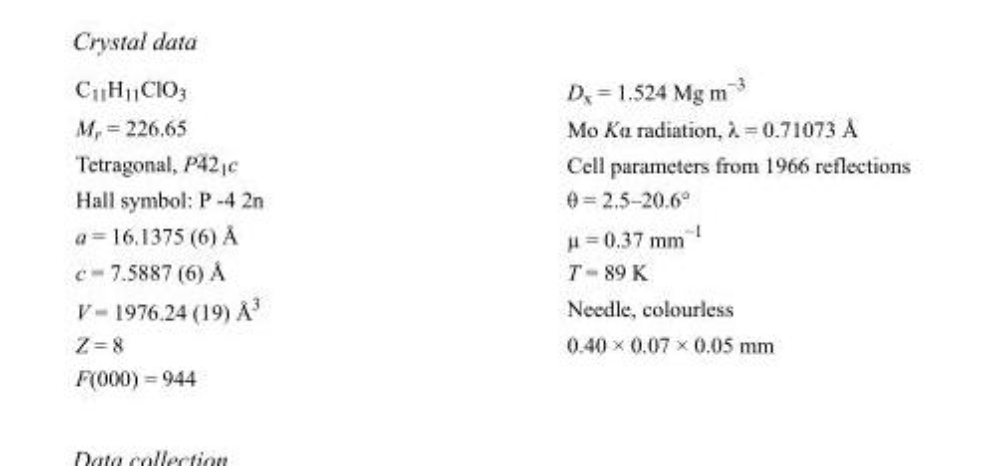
<table><tbody><tr><td>C<sub>11</sub>H<sub>11</sub>ClO<sub>3</sub></td><td>D<sub>x</sub> = 1.524 Mg m<sup>−3</sup></td></tr><tr><td>M<sub>r</sub> = 226.65</td><td>Mo Kα radiation, λ = 0.71073 Å</td></tr><tr><td>Tetragonal, P42<sub>1</sub>c</td><td>Cell parameters from 1966 reflections</td></tr><tr><td>Hall symbol: P -4 2n</td><td>θ = 2.5–20.6°</td></tr><tr><td>a = 16.1375 (6) Å</td><td>µ = 0.37 mm<sup>−1</sup></td></tr><tr><td>c = 7.5887 (6) Å</td><td>T = 89 K</td></tr><tr><td>V = 1976.24 (19) Å<sup>3</sup></td><td>Needle, colourless</td></tr><tr><td>Z = 8</td><td>0.40 × 0.07 × 0.05 mm</td></tr><tr><td>F(000) = 944</td><td></td></tr></tbody></table>